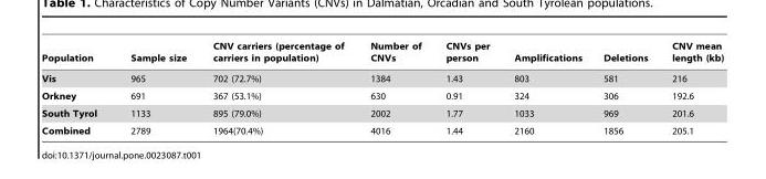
<table><thead><tr><td>Population</td><td>Sample size</td><td>CNV carriers (percentage of carriers in population)</td><td>Number of CNVs</td><td>CNVs per person</td><td>Amplifications</td><td>Deletions</td><td>CNV mean length (kb)</td></tr></thead><tbody><tr><td>Vis</td><td>965</td><td>702 (72.7%)</td><td>1384</td><td>1.43</td><td>803</td><td>581</td><td>216</td></tr><tr><td>Orkney</td><td>691</td><td>367 (53.1%)</td><td>630</td><td>0.91</td><td>324</td><td>306</td><td>192.6</td></tr><tr><td>South Tyrol</td><td>1133</td><td>895 (79.0%)</td><td>2002</td><td>1.77</td><td>1033</td><td>969</td><td>201.6</td></tr><tr><td>Combined</td><td>2789</td><td>1964(70.4%)</td><td>4016</td><td>1.44</td><td>2160</td><td>1856</td><td>205.1</td></tr></tbody></table>